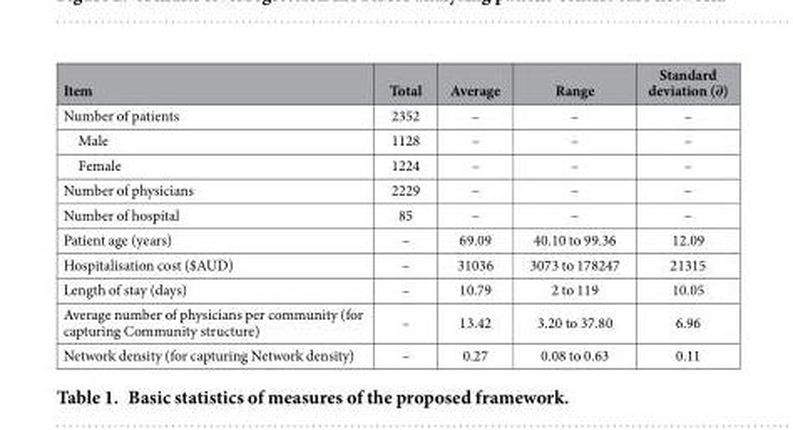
<table><thead><tr><td>Item</td><td>Total</td><td>Average</td><td>Range</td><td>Standard deviation (∂)</td></tr></thead><tbody><tr><td>Number of patients</td><td>2352</td><td>–</td><td>–</td><td>–</td></tr><tr><td>Male</td><td>1128</td><td>–</td><td>–</td><td>–</td></tr><tr><td>Female</td><td>1224</td><td>–</td><td>–</td><td>–</td></tr><tr><td>Number of physicians</td><td>2229</td><td>–</td><td>–</td><td>–</td></tr><tr><td>Number of hospital</td><td>85</td><td>–</td><td>–</td><td>–</td></tr><tr><td>Patient age (years)</td><td>–</td><td>69.09</td><td>40.10 to 99.36</td><td>12.09</td></tr><tr><td>Hospitalisation cost ($AUD)</td><td>–</td><td>31036</td><td>3073 to 178247</td><td>21315</td></tr><tr><td>Length of stay (days)</td><td>–</td><td>10.79</td><td>2 to 119</td><td>10.05</td></tr><tr><td>Average number of physicians per community (for capturing Community structure)</td><td>–</td><td>13.42</td><td>3.20 to 37.80</td><td>6.96</td></tr><tr><td>Network density (for capturing Network density)</td><td>–</td><td>0.27</td><td>0.08 to 0.63</td><td>0.11</td></tr></tbody></table>